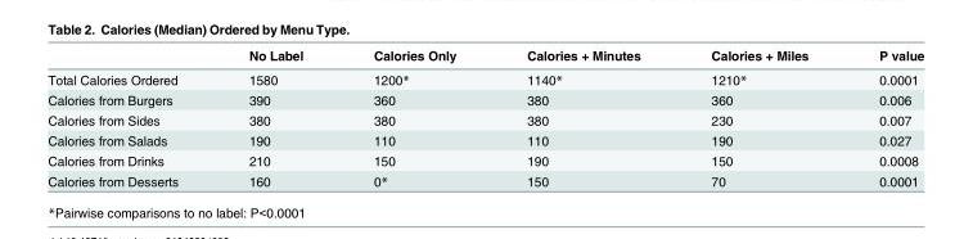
<table><thead><tr><td></td><td>No Label</td><td>Calories Only</td><td>Calories + Minutes</td><td>Calories + Miles</td><td>P value</td></tr></thead><tbody><tr><td>Total Calories Ordered</td><td>1580</td><td>1200*</td><td>1140*</td><td>1210*</td><td>0.0001</td></tr><tr><td>Calories from Burgers</td><td>390</td><td>360</td><td>380</td><td>360</td><td>0.006</td></tr><tr><td>Calories from Sides</td><td>380</td><td>380</td><td>380</td><td>230</td><td>0.007</td></tr><tr><td>Calories from Salads</td><td>190</td><td>110</td><td>110</td><td>190</td><td>0.027</td></tr><tr><td>Calories from Drinks</td><td>210</td><td>150</td><td>190</td><td>150</td><td>0.0008</td></tr><tr><td>Calories from Desserts</td><td>160</td><td>0*</td><td>150</td><td>70</td><td>0.0001</td></tr></tbody></table>